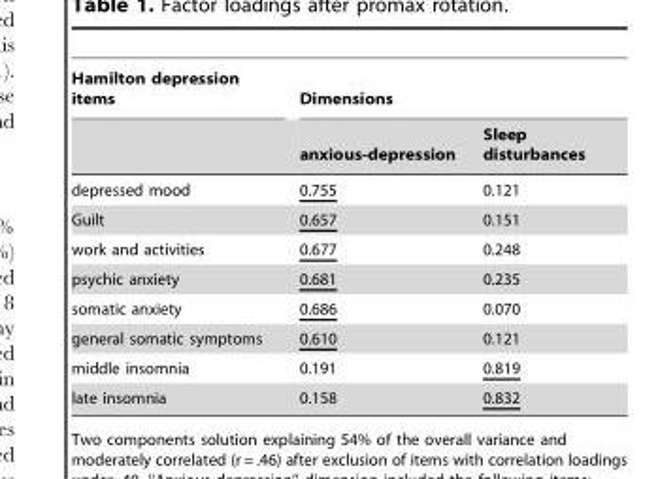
<table><thead><tr><td rowspan="2">Hamilton depression items</td><td colspan="2">Dimensions</td></tr><tr><td>anxious-depression</td><td>Sleep disturbances</td></tr></thead><tbody><tr><td>depressed mood</td><td>0.755</td><td>0.121</td></tr><tr><td>Guilt</td><td>0.657</td><td>0.151</td></tr><tr><td>work and activities</td><td>0.677</td><td>0.248</td></tr><tr><td>psychic anxiety</td><td>0.681</td><td>0.235</td></tr><tr><td>somatic anxiety</td><td>0.686</td><td>0.070</td></tr><tr><td>general somatic symptoms</td><td>0.610</td><td>0.121</td></tr><tr><td>middle insomnia</td><td>0.191</td><td>0.819</td></tr><tr><td>late insomnia</td><td>0.158</td><td>0.832</td></tr></tbody></table>